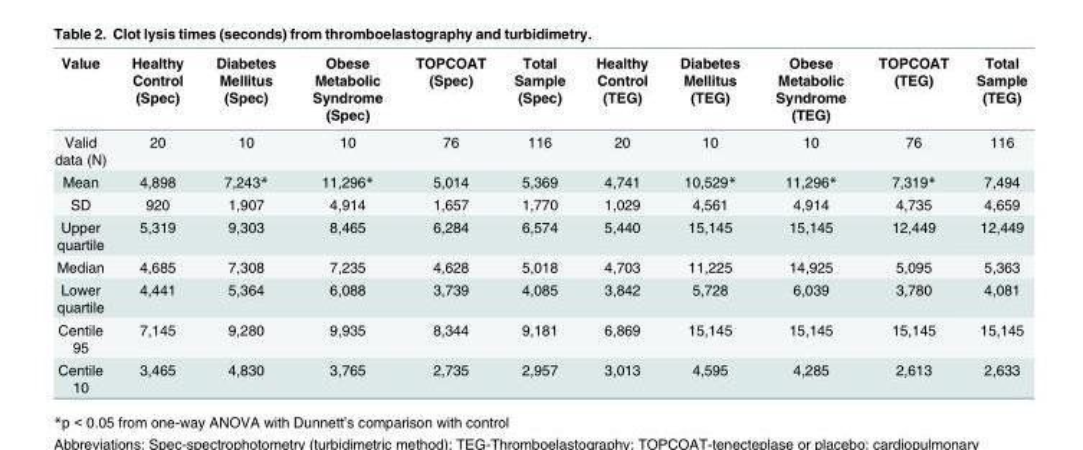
<table><thead><tr><td>Value</td><td>Healthy Control (Spec)</td><td>Diabetes Mellitus (Spec)</td><td>Obese Metabolic Syndrome (Spec)</td><td>TOPCOAT (Spec)</td><td>Total Sample (Spec)</td><td>Healthy Control (TEG)</td><td>Diabetes Mellitus (TEG)</td><td>Obese Metabolic Syndrome (TEG)</td><td>TOPCOAT (TEG)</td><td>Total Sample (TEG)</td></tr></thead><tbody><tr><td>Valid data (N)</td><td>20</td><td>10</td><td>10</td><td>76</td><td>116</td><td>20</td><td>10</td><td>10</td><td>76</td><td>116</td></tr><tr><td>Mean</td><td>4,898</td><td>7,243*</td><td>11,296*</td><td>5,014</td><td>5,369</td><td>4,741</td><td>10,529*</td><td>11,296*</td><td>7,319*</td><td>7,494</td></tr><tr><td>SD</td><td>920</td><td>1,907</td><td>4,914</td><td>1,657</td><td>1,770</td><td>1,029</td><td>4,561</td><td>4,914</td><td>4,735</td><td>4,659</td></tr><tr><td>Upper quartile</td><td>5,319</td><td>9,303</td><td>8,465</td><td>6,284</td><td>6,574</td><td>5,440</td><td>15,145</td><td>15,145</td><td>12,449</td><td>12,449</td></tr><tr><td>Median</td><td>4,685</td><td>7,308</td><td>7,235</td><td>4,628</td><td>5,018</td><td>4,703</td><td>11,225</td><td>14,925</td><td>5,095</td><td>5,363</td></tr><tr><td>Lower quartile</td><td>4,441</td><td>5,364</td><td>6,088</td><td>3,739</td><td>4,085</td><td>3,842</td><td>5,728</td><td>6,039</td><td>3,780</td><td>4,081</td></tr><tr><td>Centile 95</td><td>7,145</td><td>9,280</td><td>9,935</td><td>8,344</td><td>9,181</td><td>6,869</td><td>15,145</td><td>15,145</td><td>15,145</td><td>15,145</td></tr><tr><td>Centile 10</td><td>3,465</td><td>4,830</td><td>3,765</td><td>2,735</td><td>2,957</td><td>3,013</td><td>4,595</td><td>4,285</td><td>2,613</td><td>2,633</td></tr></tbody></table>